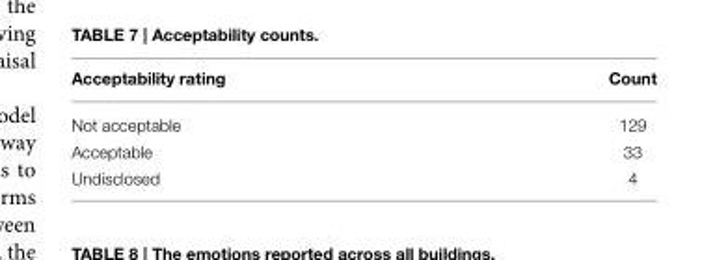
<table><thead><tr><td>Acceptability rating</td><td>Count</td></tr></thead><tbody><tr><td>Not acceptable</td><td>129</td></tr><tr><td>Acceptable</td><td>33</td></tr><tr><td>Undisclosed</td><td>4</td></tr></tbody></table>